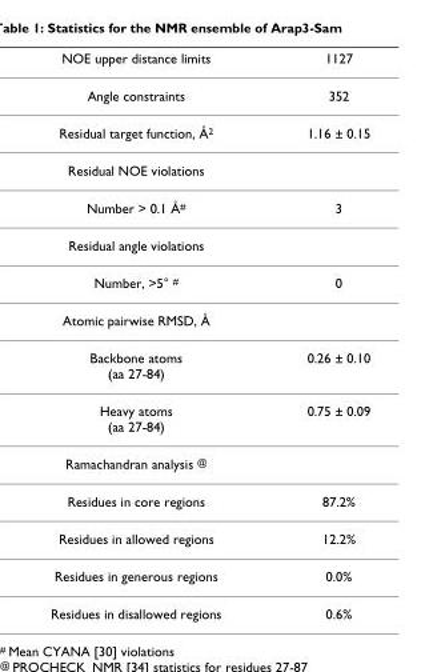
<table><thead><tr><td>NOE upper distance limits</td><td>1127</td></tr></thead><tbody><tr><td>Angle constraints</td><td>352</td></tr><tr><td>Residual target function, Å<sup>2</sup></td><td>1.16 ± 0.15</td></tr><tr><td colspan="2">Residual NOE violations</td></tr><tr><td>Number &gt; 0.1 Å<sup>#</sup></td><td>3</td></tr><tr><td colspan="2">Residual angle violations</td></tr><tr><td>Number, &gt;5° <sup>#</sup></td><td>0</td></tr><tr><td colspan="2">Atomic pairwise RMSD, Å</td></tr><tr><td>Backbone atoms (aa 27-84)</td><td>0.26 ± 0.10</td></tr><tr><td>Heavy atoms (aa 27-84)</td><td>0.75 ± 0.09</td></tr><tr><td colspan="2">Ramachandran analysis <sup>@</sup></td></tr><tr><td>Residues in core regions</td><td>87.2%</td></tr><tr><td>Residues in allowed regions</td><td>12.2%</td></tr><tr><td>Residues in generous regions</td><td>0.0%</td></tr><tr><td>Residues in disallowed regions</td><td>0.6%</td></tr></tbody></table>